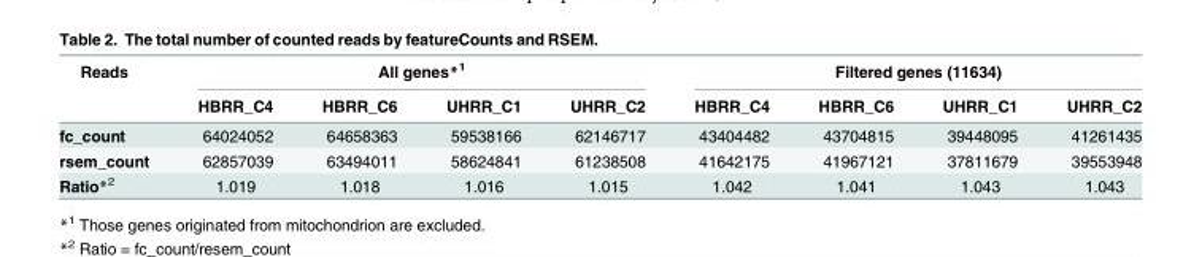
<table><thead><tr><td rowspan="2">Reads</td><td colspan="4">All genes*<sup>1</sup></td><td colspan="4">Filtered genes (11634)</td></tr><tr><td>HBRR_C4</td><td>HBRR_C6</td><td>UHRR_C1</td><td>UHRR_C2</td><td>HBRR_C4</td><td>HBRR_C6</td><td>UHRR_C1</td><td>UHRR_C2</td></tr></thead><tbody><tr><td>fc_count</td><td>64024052</td><td>64658363</td><td>59538166</td><td>62146717</td><td>43404482</td><td>43704815</td><td>39448095</td><td>41261435</td></tr><tr><td>rsem_count</td><td>62857039</td><td>63494011</td><td>58624841</td><td>61238508</td><td>41642175</td><td>41967121</td><td>37811679</td><td>39553948</td></tr><tr><td>Ratio*<sup>2</sup></td><td>1.019</td><td>1.018</td><td>1.016</td><td>1.015</td><td>1.042</td><td>1.041</td><td>1.043</td><td>1.043</td></tr></tbody></table>